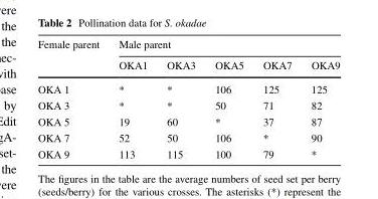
<table><thead><tr><td rowspan="2">Female parent</td><td colspan="5">Male parent</td></tr><tr><td>OKA1</td><td>OKA3</td><td>OKA5</td><td>OKA7</td><td>OKA9</td></tr></thead><tbody><tr><td>OKA 1</td><td>*</td><td>*</td><td>106</td><td>125</td><td>125</td></tr><tr><td>OKA 3</td><td>*</td><td>*</td><td>50</td><td>71</td><td>82</td></tr><tr><td>OKA 5</td><td>19</td><td>60</td><td>*</td><td>37</td><td>87</td></tr><tr><td>OKA 7</td><td>52</td><td>50</td><td>106</td><td>*</td><td>90</td></tr><tr><td>OKA 9</td><td>113</td><td>115</td><td>100</td><td>79</td><td>*</td></tr></tbody></table>